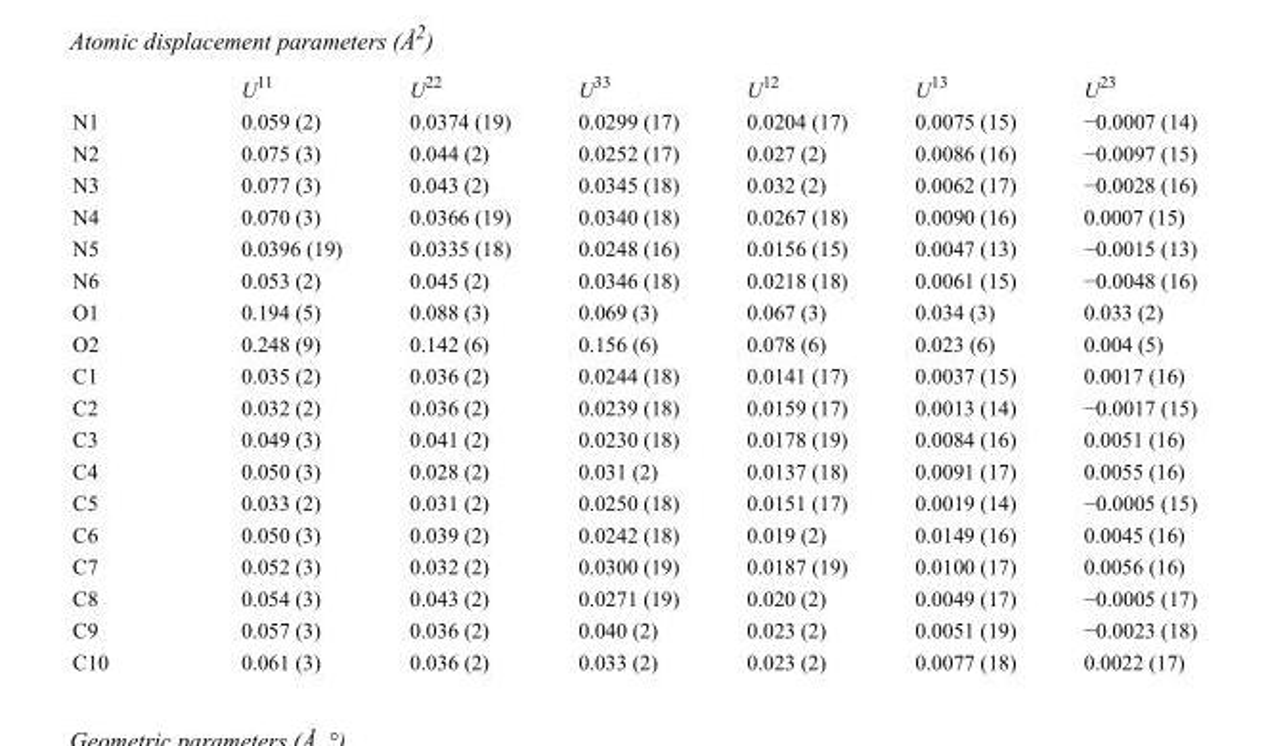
<table><thead><tr><td></td><td>U<sup>11</sup></td><td>U<sup>22</sup></td><td>U<sup>33</sup></td><td>U<sup>12</sup></td><td>U<sup>13</sup></td><td>U<sup>23</sup></td></tr></thead><tbody><tr><td>N1</td><td>0.059 (2)</td><td>0.0374 (19)</td><td>0.0299 (17)</td><td>0.0204 (17)</td><td>0.0075 (15)</td><td>−0.0007 (14)</td></tr><tr><td>N2</td><td>0.075 (3)</td><td>0.044 (2)</td><td>0.0252 (17)</td><td>0.027 (2)</td><td>0.0086 (16)</td><td>−0.0097 (15)</td></tr><tr><td>N3</td><td>0.077 (3)</td><td>0.043 (2)</td><td>0.0345 (18)</td><td>0.032 (2)</td><td>0.0062 (17)</td><td>−0.0028 (16)</td></tr><tr><td>N4</td><td>0.070 (3)</td><td>0.0366 (19)</td><td>0.0340 (18)</td><td>0.0267 (18)</td><td>0.0090 (16)</td><td>0.0007 (15)</td></tr><tr><td>N5</td><td>0.0396 (19)</td><td>0.0335 (18)</td><td>0.0248 (16)</td><td>0.0156 (15)</td><td>0.0047 (13)</td><td>−0.0015 (13)</td></tr><tr><td>N6</td><td>0.053 (2)</td><td>0.045 (2)</td><td>0.0346 (18)</td><td>0.0218 (18)</td><td>0.0061 (15)</td><td>−0.0048 (16)</td></tr><tr><td>O1</td><td>0.194 (5)</td><td>0.088 (3)</td><td>0.069 (3)</td><td>0.067 (3)</td><td>0.034 (3)</td><td>0.033 (2)</td></tr><tr><td>O2</td><td>0.248 (9)</td><td>0.142 (6)</td><td>0.156 (6)</td><td>0.078 (6)</td><td>0.023 (6)</td><td>0.004 (5)</td></tr><tr><td>C1</td><td>0.035 (2)</td><td>0.036 (2)</td><td>0.0244 (18)</td><td>0.0141 (17)</td><td>0.0037 (15)</td><td>0.0017 (16)</td></tr><tr><td>C2</td><td>0.032 (2)</td><td>0.036 (2)</td><td>0.0239 (18)</td><td>0.0159 (17)</td><td>0.0013 (14)</td><td>−0.0017 (15)</td></tr><tr><td>C3</td><td>0.049 (3)</td><td>0.041 (2)</td><td>0.0230 (18)</td><td>0.0178 (19)</td><td>0.0084 (16)</td><td>0.0051 (16)</td></tr><tr><td>C4</td><td>0.050 (3)</td><td>0.028 (2)</td><td>0.031 (2)</td><td>0.0137 (18)</td><td>0.0091 (17)</td><td>0.0055 (16)</td></tr><tr><td>C5</td><td>0.033 (2)</td><td>0.031 (2)</td><td>0.0250 (18)</td><td>0.0151 (17)</td><td>0.0019 (14)</td><td>−0.0005 (15)</td></tr><tr><td>C6</td><td>0.050 (3)</td><td>0.039 (2)</td><td>0.0242 (18)</td><td>0.019 (2)</td><td>0.0149 (16)</td><td>0.0045 (16)</td></tr><tr><td>C7</td><td>0.052 (3)</td><td>0.032 (2)</td><td>0.0300 (19)</td><td>0.0187 (19)</td><td>0.0100 (17)</td><td>0.0056 (16)</td></tr><tr><td>C8</td><td>0.054 (3)</td><td>0.043 (2)</td><td>0.0271 (19)</td><td>0.020 (2)</td><td>0.0049 (17)</td><td>−0.0005 (17)</td></tr><tr><td>C9</td><td>0.057 (3)</td><td>0.036 (2)</td><td>0.040 (2)</td><td>0.023 (2)</td><td>0.0051 (19)</td><td>−0.0023 (18)</td></tr><tr><td>C10</td><td>0.061 (3)</td><td>0.036 (2)</td><td>0.033 (2)</td><td>0.023 (2)</td><td>0.0077 (18)</td><td>0.0022 (17)</td></tr></tbody></table>